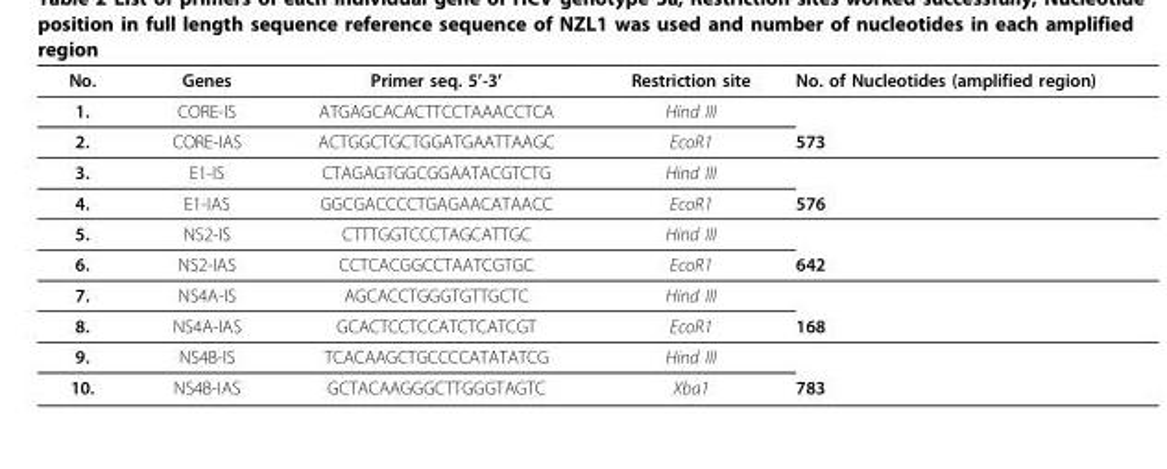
<table><thead><tr><td>No.</td><td>Genes</td><td>Primer seq. 5’-3’</td><td>Restriction site</td><td>No. of Nucleotides (amplified region)</td></tr></thead><tbody><tr><td>1.</td><td>CORE-IS</td><td>ATGAGCACACTTCCTAAACCTCA</td><td>Hind III</td><td></td></tr><tr><td>2.</td><td>CORE-IAS</td><td>ACTGGCTGCTGGATGAATTAAGC</td><td>EcoR1</td><td>573</td></tr><tr><td>3.</td><td>E1-IS</td><td>CTAGAGTGGCGGAATACGTCTG</td><td>Hind III</td><td></td></tr><tr><td>4.</td><td>E1-IAS</td><td>GGCGACCCCTGAGAACATAACC</td><td>EcoR1</td><td>576</td></tr><tr><td>5.</td><td>NS2-IS</td><td>CTTTGGTCCCTAGCATTGC</td><td>Hind III</td><td></td></tr><tr><td>6.</td><td>NS2-IAS</td><td>CCTCACGGCCTAATCGTGC</td><td>EcoR1</td><td>642</td></tr><tr><td>7.</td><td>NS4A-IS</td><td>AGCACCTGGGTGTTGCTC</td><td>Hind III</td><td></td></tr><tr><td>8.</td><td>NS4A-IAS</td><td>GCACTCCTCCATCTCATCGT</td><td>EcoR1</td><td>168</td></tr><tr><td>9.</td><td>NS4B-IS</td><td>TCACAAGCTGCCCCATATATCG</td><td>Hind III</td><td></td></tr><tr><td>10.</td><td>NS4B-IAS</td><td>GCTACAAGGGCTTGGGTAGTC</td><td>Xba1</td><td>783</td></tr></tbody></table>